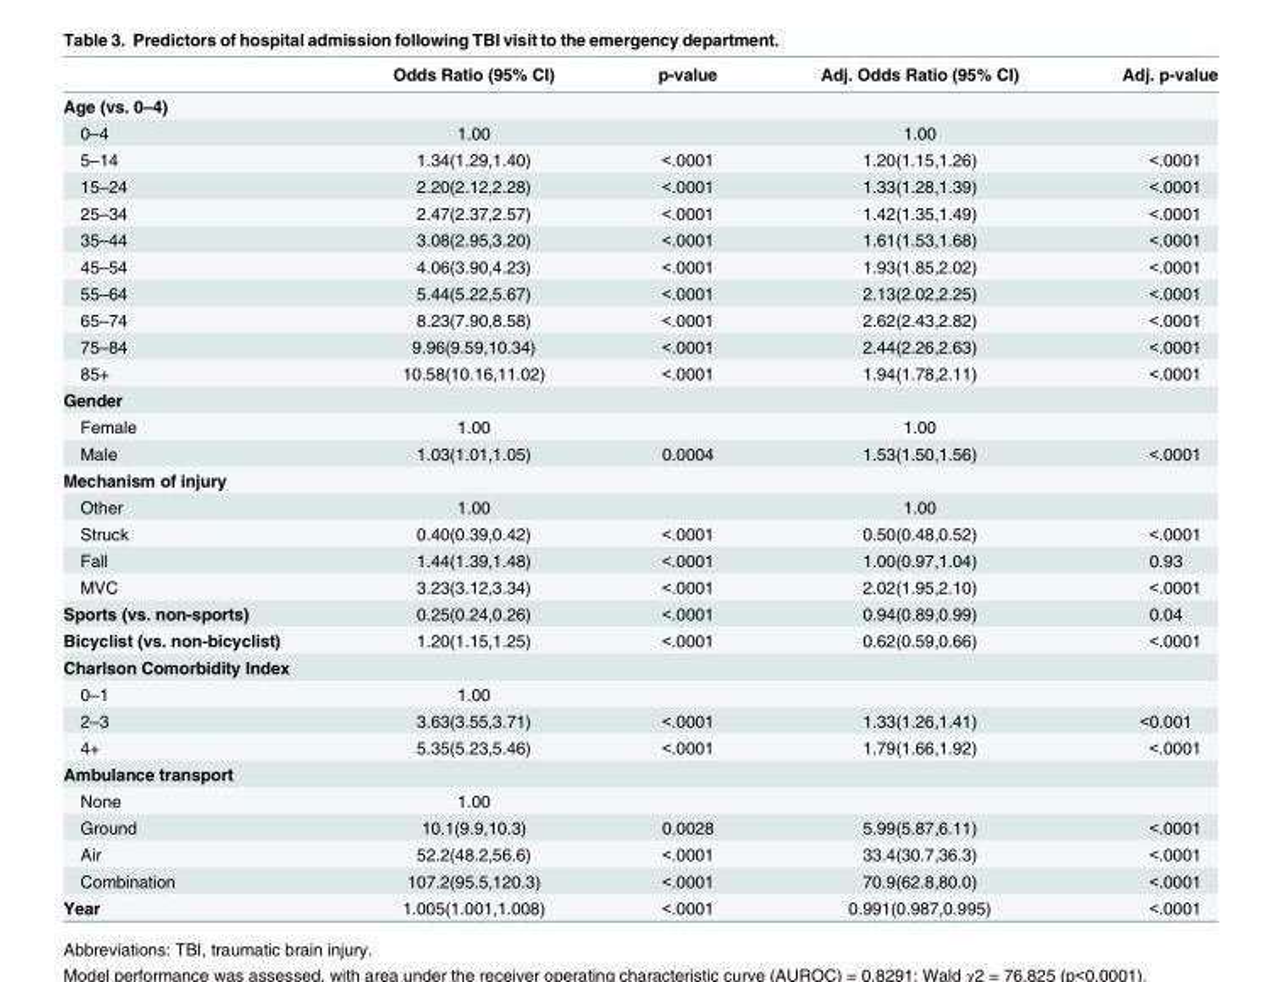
<table><thead><tr><td></td><td>Odds Ratio (95% CI)</td><td>p-value</td><td>Adj. Odds Ratio (95% CI)</td><td>Adj. p-value</td></tr></thead><tbody><tr><td colspan="5">Age (vs. 0–4)</td></tr><tr><td>0–4</td><td>1.00</td><td></td><td>1.00</td><td></td></tr><tr><td>5–14</td><td>1.34(1.29,1.40)</td><td>&lt;.0001</td><td>1.20(1.15,1.26)</td><td>&lt;.0001</td></tr><tr><td>15–24</td><td>2.20(2.12,2.28)</td><td>&lt;.0001</td><td>1.33(1.28,1.39)</td><td>&lt;.0001</td></tr><tr><td>25–34</td><td>2.47(2.37,2.57)</td><td>&lt;.0001</td><td>1.42(1.35,1.49)</td><td>&lt;.0001</td></tr><tr><td>35–44</td><td>3.08(2.95,3.20)</td><td>&lt;.0001</td><td>1.61(1.53,1.68)</td><td>&lt;.0001</td></tr><tr><td>45–54</td><td>4.06(3.90,4.23)</td><td>&lt;.0001</td><td>1.93(1.85,2.02)</td><td>&lt;.0001</td></tr><tr><td>55–64</td><td>5.44(5.22,5.67)</td><td>&lt;.0001</td><td>2.13(2.02,2.25)</td><td>&lt;.0001</td></tr><tr><td>65–74</td><td>8.23(7.90,8.58)</td><td>&lt;.0001</td><td>2.62(2.43,2.82)</td><td>&lt;.0001</td></tr><tr><td>75–84</td><td>9.96(9.59,10.34)</td><td>&lt;.0001</td><td>2.44(2.26,2.63)</td><td>&lt;.0001</td></tr><tr><td>85+</td><td>10.58(10.16,11.02)</td><td>&lt;.0001</td><td>1.94(1.78,2.11)</td><td>&lt;.0001</td></tr><tr><td colspan="5">Gender</td></tr><tr><td>Female</td><td>1.00</td><td></td><td>1.00</td><td></td></tr><tr><td>Male</td><td>1.03(1.01,1.05)</td><td>0.0004</td><td>1.53(1.50,1.56)</td><td>&lt;.0001</td></tr><tr><td colspan="5">Mechanism of injury</td></tr><tr><td>Other</td><td>1.00</td><td></td><td>1.00</td><td></td></tr><tr><td>Struck</td><td>0.40(0.39,0.42)</td><td>&lt;.0001</td><td>0.50(0.48,0.52)</td><td>&lt;.0001</td></tr><tr><td>Fall</td><td>1.44(1.39,1.48)</td><td>&lt;.0001</td><td>1.00(0.97,1.04)</td><td>0.93</td></tr><tr><td>MVC</td><td>3.23(3.12,3.34)</td><td>&lt;.0001</td><td>2.02(1.95,2.10)</td><td>&lt;.0001</td></tr><tr><td>Sports (vs. non-sports)</td><td>0.25(0.24,0.26)</td><td>&lt;.0001</td><td>0.94(0.89,0.99)</td><td>0.04</td></tr><tr><td>Bicyclist (vs. non-bicyclist)</td><td>1.20(1.15,1.25)</td><td>&lt;.0001</td><td>0.62(0.59,0.66)</td><td>&lt;.0001</td></tr><tr><td colspan="5">Charlson Comorbidity Index</td></tr><tr><td>0–1</td><td>1.00</td><td></td><td></td><td></td></tr><tr><td>2–3</td><td>3.63(3.55,3.71)</td><td>&lt;.0001</td><td>1.33(1.26,1.41)</td><td>&lt;0.001</td></tr><tr><td>4+</td><td>5.35(5.23,5.46)</td><td>&lt;.0001</td><td>1.79(1.66,1.92)</td><td>&lt;.0001</td></tr><tr><td colspan="5">Ambulance transport</td></tr><tr><td>None</td><td>1.00</td><td></td><td></td><td></td></tr><tr><td>Ground</td><td>10.1(9.9,10.3)</td><td>0.0028</td><td>5.99(5.87,6.11)</td><td>&lt;.0001</td></tr><tr><td>Air</td><td>52.2(48.2,56.6)</td><td>&lt;.0001</td><td>33.4(30.7,36.3)</td><td>&lt;.0001</td></tr><tr><td>Combination</td><td>107.2(95.5,120.3)</td><td>&lt;.0001</td><td>70.9(62.8,80.0)</td><td>&lt;.0001</td></tr><tr><td>Year</td><td>1.005(1.001,1.008)</td><td>&lt;.0001</td><td>0.991(0.987,0.995)</td><td>&lt;.0001</td></tr></tbody></table>